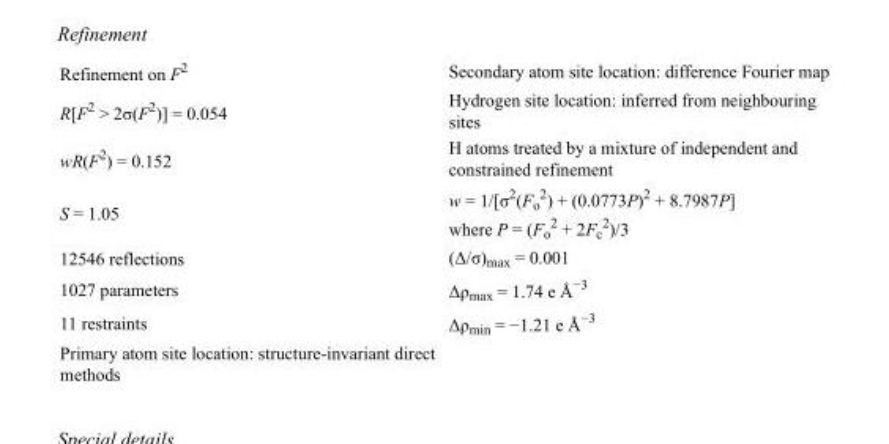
<table><tbody><tr><td>Refinement on F<sup>2</sup></td><td>Secondary atom site location: difference Fourier map</td></tr><tr><td>R[F<sup>2</sup> &gt; 2σ(F<sup>2</sup>)] = 0.054</td><td>Hydrogen site location: inferred from neighbouring sites</td></tr><tr><td>wR(F<sup>2</sup>) = 0.152</td><td>H atoms treated by a mixture of independent and constrained refinement</td></tr><tr><td>S = 1.05</td><td>w = 1/[σ<sup>2</sup>(F<sub>o</sub> <sup>2</sup>) + (0.0773P)<sup>2</sup> + 8.7987P] where P = (F<sub>o</sub> <sup>2</sup> + 2F<sub>c</sub> <sup>2</sup>)/3</td></tr><tr><td>12546 reflections</td><td>(Δ/σ)<sub>max</sub> = 0.001</td></tr><tr><td>1027 parameters</td><td>Δρ<sub>max</sub> = 1.74 e Å<sup>−3</sup></td></tr><tr><td>11 restraints</td><td>Δρ<sub>min</sub> = −1.21 e Å<sup>−3</sup></td></tr><tr><td>Primary atom site location: structure-invariant direct methods</td><td></td></tr></tbody></table>